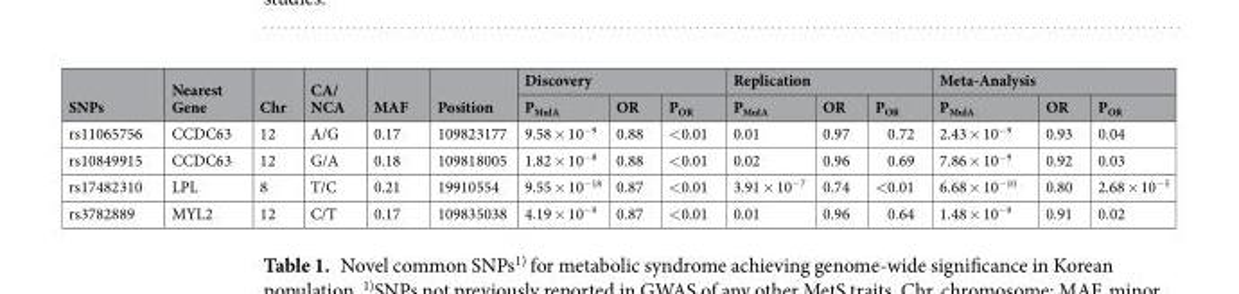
<table><thead><tr><td rowspan="2">SNPs</td><td rowspan="2">Nearest Gene</td><td rowspan="2">Chr</td><td rowspan="2">CA/ NCA</td><td rowspan="2">MAF</td><td rowspan="2">Position</td><td colspan="3">Discovery</td><td colspan="3">Replication</td><td colspan="3">Meta-Analysis</td></tr><tr><td>P<sub>MulA</sub></td><td>OR</td><td>P<sub>OR</sub></td><td>P<sub>MulA</sub></td><td>OR</td><td>P<sub>OR</sub></td><td>P<sub>MulA</sub></td><td>OR</td><td>P<sub>OR</sub></td></tr></thead><tbody><tr><td>rs11065756</td><td>CCDC63</td><td>12</td><td>A/G</td><td>0.17</td><td>109823177</td><td>9.58 × 10<sup>−9</sup></td><td>0.88</td><td>&lt;0.01</td><td>0.01</td><td>0.97</td><td>0.72</td><td>2.43 × 10<sup>−9</sup></td><td>0.93</td><td>0.04</td></tr><tr><td>rs10849915</td><td>CCDC63</td><td>12</td><td>G/A</td><td>0.18</td><td>109818005</td><td>1.82 × 10<sup>−8</sup></td><td>0.88</td><td>&lt;0.01</td><td>0.02</td><td>0.96</td><td>0.69</td><td>7.86 × 10<sup>−9</sup></td><td>0.92</td><td>0.03</td></tr><tr><td>rs17482310</td><td>LPL</td><td>8</td><td>T/C</td><td>0.21</td><td>19910554</td><td>9.55 × 10<sup>−18</sup></td><td>0.87</td><td>&lt;0.01</td><td>3.91 × 10<sup>−7</sup></td><td>0.74</td><td>&lt;0.01</td><td>6.68 × 10<sup>−10</sup></td><td>0.80</td><td>2.68 × 10<sup>−5</sup></td></tr><tr><td>rs3782889</td><td>MYL2</td><td>12</td><td>C/T</td><td>0.17</td><td>109835038</td><td>4.19 × 10<sup>−9</sup></td><td>0.87</td><td>&lt;0.01</td><td>0.01</td><td>0.96</td><td>0.64</td><td>1.48 × 10<sup>−9</sup></td><td>0.91</td><td>0.02</td></tr></tbody></table>